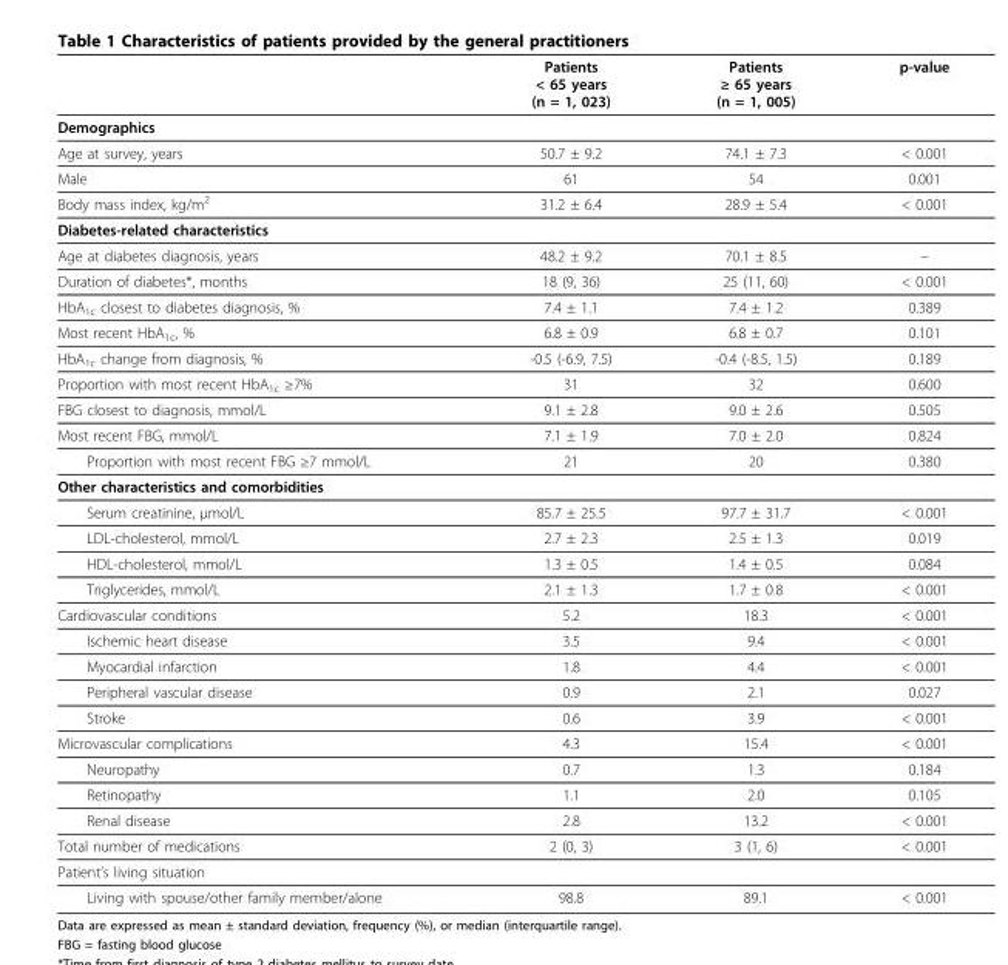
<table><thead><tr><td></td><td>Patients &lt; 65 years (n = 1, 023)</td><td>Patients ≥ 65 years (n = 1, 005)</td><td>p-value</td></tr></thead><tbody><tr><td colspan="4">Demographics</td></tr><tr><td>Age at survey, years</td><td>50.7 ± 9.2</td><td>74.1 ± 7.3</td><td>&lt; 0.001</td></tr><tr><td>Male</td><td>61</td><td>54</td><td>0.001</td></tr><tr><td>Body mass index, kg/m2</td><td>31.2 ± 6.4</td><td>28.9 ± 5.4</td><td>&lt; 0.001</td></tr><tr><td colspan="4">Diabetes-related characteristics</td></tr><tr><td>Age at diabetes diagnosis, years</td><td>48.2 ± 9.2</td><td>70.1 ± 8.5</td><td>–</td></tr><tr><td>Duration of diabetes*, months</td><td>18 (9, 36)</td><td>25 (11, 60)</td><td>&lt; 0.001</td></tr><tr><td>HbA1c closest to diabetes diagnosis, %</td><td>7.4 ± 1.1</td><td>7.4 ± 1.2</td><td>0.389</td></tr><tr><td>Most recent HbA1c, %</td><td>6.8 ± 0.9</td><td>6.8 ± 0.7</td><td>0.101</td></tr><tr><td>HbA1c change from diagnosis, %</td><td>-0.5 (-6.9, 7.5)</td><td>-0.4 (-8.5, 1.5)</td><td>0.189</td></tr><tr><td>Proportion with most recent HbA1c ≥7%</td><td>31</td><td>32</td><td>0.600</td></tr><tr><td>FBG closest to diagnosis, mmol/L</td><td>9.1 ± 2.8</td><td>9.0 ± 2.6</td><td>0.505</td></tr><tr><td>Most recent FBG, mmol/L</td><td>7.1 ± 1.9</td><td>7.0 ± 2.0</td><td>0.824</td></tr><tr><td>Proportion with most recent FBG ≥7 mmol/L</td><td>21</td><td>20</td><td>0.380</td></tr><tr><td colspan="4">Other characteristics and comorbidities</td></tr><tr><td>Serum creatinine, μmol/L</td><td>85.7 ± 25.5</td><td>97.7 ± 31.7</td><td>&lt; 0.001</td></tr><tr><td>LDL-cholesterol, mmol/L</td><td>2.7 ± 2.3</td><td>2.5 ± 1.3</td><td>0.019</td></tr><tr><td>HDL-cholesterol, mmol/L</td><td>1.3 ± 0.5</td><td>1.4 ± 0.5</td><td>0.084</td></tr><tr><td>Triglycerides, mmol/L</td><td>2.1 ± 1.3</td><td>1.7 ± 0.8</td><td>&lt; 0.001</td></tr><tr><td>Cardiovascular conditions</td><td>5.2</td><td>18.3</td><td>&lt; 0.001</td></tr><tr><td>Ischemic heart disease</td><td>3.5</td><td>9.4</td><td>&lt; 0.001</td></tr><tr><td>Myocardial infarction</td><td>1.8</td><td>4.4</td><td>&lt; 0.001</td></tr><tr><td>Peripheral vascular disease</td><td>0.9</td><td>2.1</td><td>0.027</td></tr><tr><td>Stroke</td><td>0.6</td><td>3.9</td><td>&lt; 0.001</td></tr><tr><td>Microvascular complications</td><td>4.3</td><td>15.4</td><td>&lt; 0.001</td></tr><tr><td>Neuropathy</td><td>0.7</td><td>1.3</td><td>0.184</td></tr><tr><td>Retinopathy</td><td>1.1</td><td>2.0</td><td>0.105</td></tr><tr><td>Renal disease</td><td>2.8</td><td>13.2</td><td>&lt; 0.001</td></tr><tr><td>Total number of medications</td><td>2 (0, 3)</td><td>3 (1, 6)</td><td>&lt; 0.001</td></tr><tr><td colspan="4">Patient’s living situation</td></tr><tr><td>Living with spouse/other family member/alone</td><td>98.8</td><td>89.1</td><td>&lt; 0.001</td></tr></tbody></table>